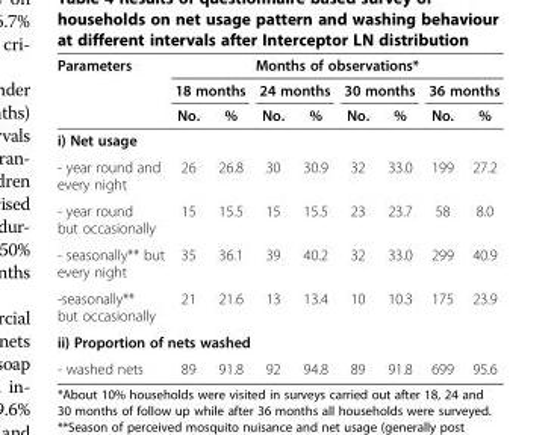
<table><thead><tr><td rowspan="3">Parameters</td><td colspan="8">Months of observations*</td></tr><tr><td colspan="2">18 months</td><td colspan="2">24 months</td><td colspan="2">30 months</td><td colspan="2">36 months</td></tr><tr><td>No.</td><td>%</td><td>No.</td><td>%</td><td>No.</td><td>%</td><td>No.</td><td>%</td></tr></thead><tbody><tr><td colspan="9">i) Net usage</td></tr><tr><td>- year round and every night</td><td>26</td><td>26.8</td><td>30</td><td>30.9</td><td>32</td><td>33.0</td><td>199</td><td>27.2</td></tr><tr><td>- year round but occasionally</td><td>15</td><td>15.5</td><td>15</td><td>15.5</td><td>23</td><td>23.7</td><td>58</td><td>8.0</td></tr><tr><td>- seasonally** but every night</td><td>35</td><td>36.1</td><td>39</td><td>40.2</td><td>32</td><td>33.0</td><td>299</td><td>40.9</td></tr><tr><td>-seasonally** but occasionally</td><td>21</td><td>21.6</td><td>13</td><td>13.4</td><td>10</td><td>10.3</td><td>175</td><td>23.9</td></tr><tr><td colspan="9">ii) Proportion of nets washed</td></tr><tr><td>- washed nets</td><td>89</td><td>91.8</td><td>92</td><td>94.8</td><td>89</td><td>91.8</td><td>699</td><td>95.6</td></tr></tbody></table>